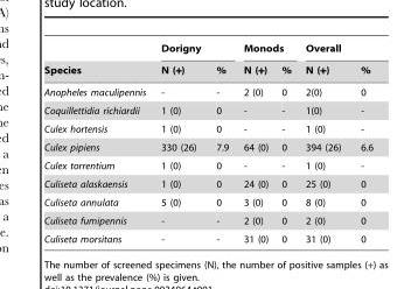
<table><thead><tr><td rowspan="2">Species</td><td colspan="2">Dorigny</td><td colspan="2">Monods</td><td colspan="2">Overall</td></tr><tr><td>N (+)</td><td>%</td><td>N (+)</td><td>%</td><td>N (+)</td><td>%</td></tr></thead><tbody><tr><td>Anopheles maculipennis</td><td>-</td><td>-</td><td>2 (0)</td><td>0</td><td>2(0)</td><td>0</td></tr><tr><td>Coquillettidia richiardii</td><td>1 (0)</td><td>0</td><td>-</td><td>-</td><td>1(0)</td><td>-</td></tr><tr><td>Culex hortensis</td><td>1 (0)</td><td>0</td><td>-</td><td>-</td><td>1 (0)</td><td>-</td></tr><tr><td>Culex pipiens</td><td>330 (26)</td><td>7.9</td><td>64 (0)</td><td>0</td><td>394 (26)</td><td>6.6</td></tr><tr><td>Culex torrentium</td><td>1 (0)</td><td>0</td><td>-</td><td>-</td><td>1 (0)</td><td>-</td></tr><tr><td>Culiseta alaskaensis</td><td>1 (0)</td><td>0</td><td>24 (0)</td><td>0</td><td>25 (0)</td><td>0</td></tr><tr><td>Culiseta annulata</td><td>5 (0)</td><td>0</td><td>3 (0)</td><td>0</td><td>8 (0)</td><td>0</td></tr><tr><td>Culiseta fumipennis</td><td>-</td><td>-</td><td>2 (0)</td><td>0</td><td>2 (0)</td><td>0</td></tr><tr><td>Culiseta morsitans</td><td>-</td><td>-</td><td>31 (0)</td><td>0</td><td>31 (0)</td><td>0</td></tr></tbody></table>